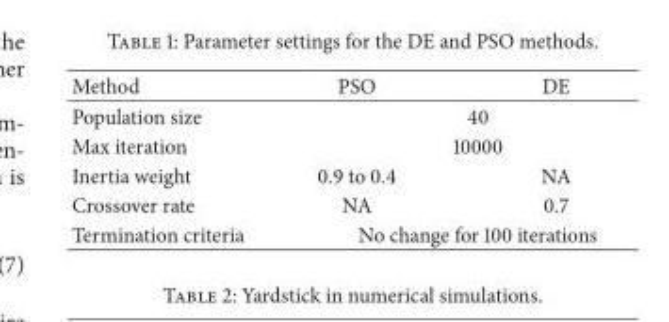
<table><thead><tr><td>Method</td><td>PSO</td><td>DE</td></tr></thead><tbody><tr><td>Population size</td><td colspan="2">40</td></tr><tr><td>Max iteration</td><td colspan="2">10000</td></tr><tr><td>Inertia weight</td><td>0.9 to 0.4</td><td>NA</td></tr><tr><td>Crossover rate</td><td>NA</td><td>0.7</td></tr><tr><td>Termination criteria</td><td colspan="2">No change for 100 iterations</td></tr></tbody></table>